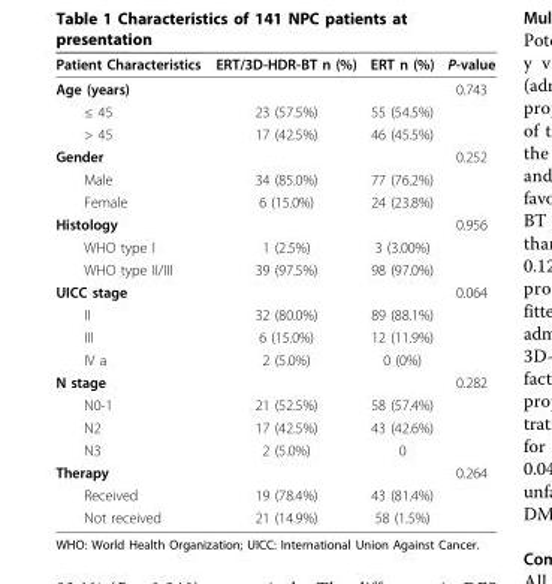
<table><thead><tr><td>Patient Characteristics</td><td>ERT/3D-HDR-BT n (%)</td><td>ERT n (%)</td><td>P-value</td></tr></thead><tbody><tr><td>Age (years)</td><td></td><td></td><td>0.743</td></tr><tr><td>≤ 45</td><td>23 (57.5%)</td><td>55 (54.5%)</td><td></td></tr><tr><td>&gt; 45</td><td>17 (42.5%)</td><td>46 (45.5%)</td><td></td></tr><tr><td>Gender</td><td></td><td></td><td>0.252</td></tr><tr><td>Male</td><td>34 (85.0%)</td><td>77 (76.2%)</td><td></td></tr><tr><td>Female</td><td>6 (15.0%)</td><td>24 (23.8%)</td><td></td></tr><tr><td>Histology</td><td></td><td></td><td>0.956</td></tr><tr><td>WHO type I</td><td>1 (2.5%)</td><td>3 (3.00%)</td><td></td></tr><tr><td>WHO type II/III</td><td>39 (97.5%)</td><td>98 (97.0%)</td><td></td></tr><tr><td>UICC stage</td><td></td><td></td><td>0.064</td></tr><tr><td>II</td><td>32 (80.0%)</td><td>89 (88.1%)</td><td></td></tr><tr><td>III</td><td>6 (15.0%)</td><td>12 (11.9%)</td><td></td></tr><tr><td>IV a</td><td>2 (5.0%)</td><td>0 (0%)</td><td></td></tr><tr><td>N stage</td><td></td><td></td><td>0.282</td></tr><tr><td>N0-1</td><td>21 (52.5%)</td><td>58 (57.4%)</td><td></td></tr><tr><td>N2</td><td>17 (42.5%)</td><td>43 (42.6%)</td><td></td></tr><tr><td>N3</td><td>2 (5.0%)</td><td>0</td><td></td></tr><tr><td>Therapy</td><td></td><td></td><td>0.264</td></tr><tr><td>Received</td><td>19 (78.4%)</td><td>43 (81.4%)</td><td></td></tr><tr><td>Not received</td><td>21 (14.9%)</td><td>58 (1.5%)</td><td></td></tr></tbody></table>